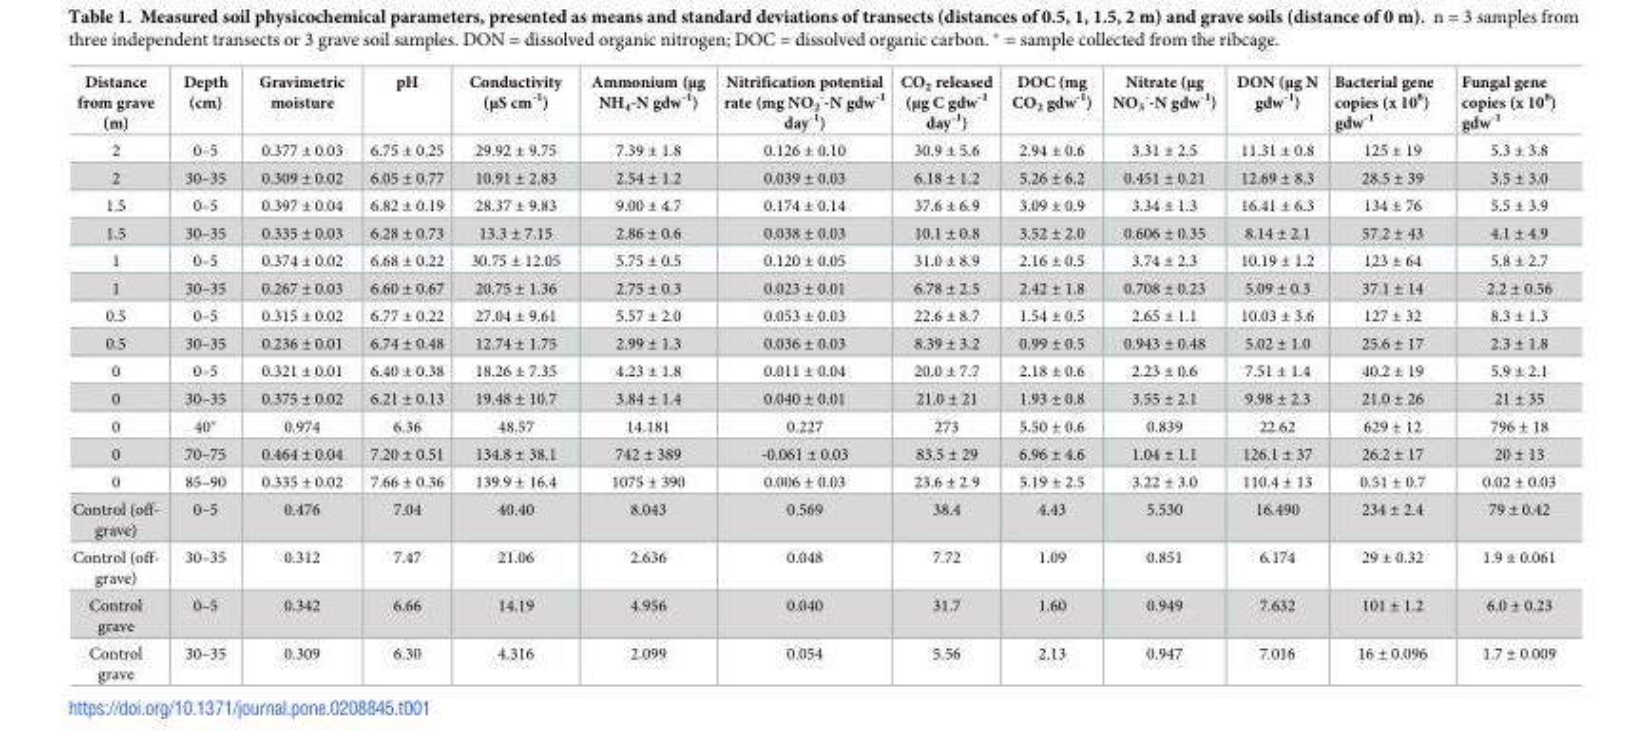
<table><thead><tr><td>Distance from grave (m)</td><td>Depth (cm)</td><td>Gravimetric moisture</td><td>pH</td><td>Conductivity (μS cm<sup>-1</sup>)</td><td>Ammonium (μg NH<sub>4</sub>-N gdw<sup>-1</sup>)</td><td>Nitrification potential rate (mg NO<sub>2</sub> -<sup>-</sup>N gdw<sup>-1</sup> day<sup>-1</sup>)</td><td>CO<sub>2</sub> released (μg C gdw<sup>-1</sup> day<sup>-1</sup>)</td><td>DOC (mg CO<sub>2</sub> gdw<sup>-1</sup>)</td><td>Nitrate (μg NO<sub>3</sub> -<sup>-</sup>N gdw<sup>-1</sup>)</td><td>DON (μg N gdw<sup>-1</sup>)</td><td>Bacterial gene copies (x 10<sup>8</sup>) gdw<sup>-1</sup></td><td>Fungal gene copies (x 10<sup>8</sup>) gdw<sup>-1</sup></td></tr></thead><tbody><tr><td>2</td><td>0–5</td><td>0.377 ± 0.03</td><td>6.75 ± 0.25</td><td>29.92 ± 9.75</td><td>7.39 ± 1.8</td><td>0.126 ± 0.10</td><td>30.9 ± 5.6</td><td>2.94 ± 0.6</td><td>3.31 ± 2.5</td><td>11.31 ± 0.8</td><td>125 ± 19</td><td>5.3 ± 3.8</td></tr><tr><td>2</td><td>30–35</td><td>0.309 ± 0.02</td><td>6.05 ± 0.77</td><td>10.91 ± 2.83</td><td>2.54 ± 1.2</td><td>0.039 ± 0.03</td><td>6.18 ± 1.2</td><td>5.26 ± 6.2</td><td>0.451 ± 0.21</td><td>12.69 ± 8.3</td><td>28.5 ± 39</td><td>3.5 ± 3.0</td></tr><tr><td>1.5</td><td>0–5</td><td>0.397 ± 0.04</td><td>6.82 ± 0.19</td><td>28.37 ± 9.83</td><td>9.00 ± 4.7</td><td>0.174 ± 0.14</td><td>37.6 ± 6.9</td><td>3.09 ± 0.9</td><td>3.34 ± 1.3</td><td>16.41 ± 6.3</td><td>134 ± 76</td><td>5.5 ± 3.9</td></tr><tr><td>1.5</td><td>30–35</td><td>0.335 ± 0.03</td><td>6.28 ± 0.73</td><td>13.3 ± 7.15</td><td>2.86 ± 0.6</td><td>0.038 ± 0.03</td><td>10.1 ± 0.8</td><td>3.52 ± 2.0</td><td>0.606 ± 0.35</td><td>8.14 ± 2.1</td><td>57.2 ± 43</td><td>4.1 ± 4.9</td></tr><tr><td>1</td><td>0–5</td><td>0.374 ± 0.02</td><td>6.68 ± 0.22</td><td>30.75 ± 12.05</td><td>5.75 ± 0.5</td><td>0.120 ± 0.05</td><td>31.0 ± 8.9</td><td>2.16 ± 0.5</td><td>3.74 ± 2.3</td><td>10.19 ± 1.2</td><td>123 ± 64</td><td>5.8 ± 2.7</td></tr><tr><td>1</td><td>30–35</td><td>0.267 ± 0.03</td><td>6.60 ± 0.67</td><td>20.75 ± 1.36</td><td>2.75 ± 0.3</td><td>0.023 ± 0.01</td><td>6.78 ± 2.5</td><td>2.42 ± 1.8</td><td>0.708 ± 0.23</td><td>5.09 ± 0.3</td><td>37.1 ± 14</td><td>2.2 ± 0.56</td></tr><tr><td>0.5</td><td>0–5</td><td>0.315 ± 0.02</td><td>6.77 ± 0.22</td><td>27.04 ± 9.61</td><td>5.57 ± 2.0</td><td>0.053 ± 0.03</td><td>22.6 ± 8.7</td><td>1.54 ± 0.5</td><td>2.65 ± 1.1</td><td>10.03 ± 3.6</td><td>127 ± 32</td><td>8.3 ± 1.3</td></tr><tr><td>0.5</td><td>30–35</td><td>0.236 ± 0.01</td><td>6.74 ± 0.48</td><td>12.74 ± 1.75</td><td>2.99 ± 1.3</td><td>0.036 ± 0.03</td><td>8.39 ± 3.2</td><td>0.99 ± 0.5</td><td>0.943 ± 0.48</td><td>5.02 ± 1.0</td><td>25.6 ± 17</td><td>2.3 ± 1.8</td></tr><tr><td>0</td><td>0–5</td><td>0.321 ± 0.01</td><td>6.40 ± 0.38</td><td>18.26 ± 7.35</td><td>4.23 ± 1.8</td><td>0.011 ± 0.04</td><td>20.0 ± 7.7</td><td>2.18 ± 0.6</td><td>2.23 ± 0.6</td><td>7.51 ± 1.4</td><td>40.2 ± 19</td><td>5.9 ± 2.1</td></tr><tr><td>0</td><td>30–35</td><td>0.375 ± 0.02</td><td>6.21 ± 0.13</td><td>19.48 ± 10.7</td><td>3.84 ± 1.4</td><td>0.040 ± 0.01</td><td>21.0 ± 21</td><td>1.93 ± 0.8</td><td>3.55 ± 2.1</td><td>9.98 ± 2.3</td><td>21.0 ± 26</td><td>21 ± 35</td></tr><tr><td>0</td><td>40*</td><td>0.974</td><td>6.36</td><td>48.57</td><td>14.181</td><td>0.227</td><td>273</td><td>5.50 ± 0.6</td><td>0.839</td><td>22.62</td><td>629 ± 12</td><td>796 ± 18</td></tr><tr><td>0</td><td>70–75</td><td>0.464 ± 0.04</td><td>7.20 ± 0.51</td><td>134.8 ± 38.1</td><td>742 ± 389</td><td>-0.061 ± 0.03</td><td>83.5 ± 29</td><td>6.96 ± 4.6</td><td>1.04 ± 1.1</td><td>126.1 ± 37</td><td>26.2 ± 17</td><td>20 ± 13</td></tr><tr><td>0</td><td>85–90</td><td>0.335 ± 0.02</td><td>7.66 ± 0.36</td><td>139.9 ± 16.4</td><td>1075 ± 390</td><td>0.006 ± 0.03</td><td>23.6 ± 2.9</td><td>5.19 ± 2.5</td><td>3.22 ± 3.0</td><td>110.4 ± 13</td><td>0.51 ± 0.7</td><td>0.02 ± 0.03</td></tr><tr><td>Control (off- grave)</td><td>0–5</td><td>0.476</td><td>7.04</td><td>40.40</td><td>8.043</td><td>0.569</td><td>38.4</td><td>4.43</td><td>5.530</td><td>16.490</td><td>234 ± 2.4</td><td>79 ± 0.42</td></tr><tr><td>Control (off- grave)</td><td>30–35</td><td>0.312</td><td>7.47</td><td>21.06</td><td>2.636</td><td>0.048</td><td>7.72</td><td>1.09</td><td>0.851</td><td>6.174</td><td>29 ± 0.32</td><td>1.9 ± 0.061</td></tr><tr><td>Control grave</td><td>0–5</td><td>0.342</td><td>6.66</td><td>14.19</td><td>4.956</td><td>0.040</td><td>31.7</td><td>1.60</td><td>0.949</td><td>7.632</td><td>101 ± 1.2</td><td>6.0 ± 0.23</td></tr><tr><td>Control grave</td><td>30–35</td><td>0.309</td><td>6.30</td><td>4.316</td><td>2.099</td><td>0.054</td><td>5.56</td><td>2.13</td><td>0.947</td><td>7.016</td><td>16 ± 0.096</td><td>1.7 ± 0.009</td></tr></tbody></table>